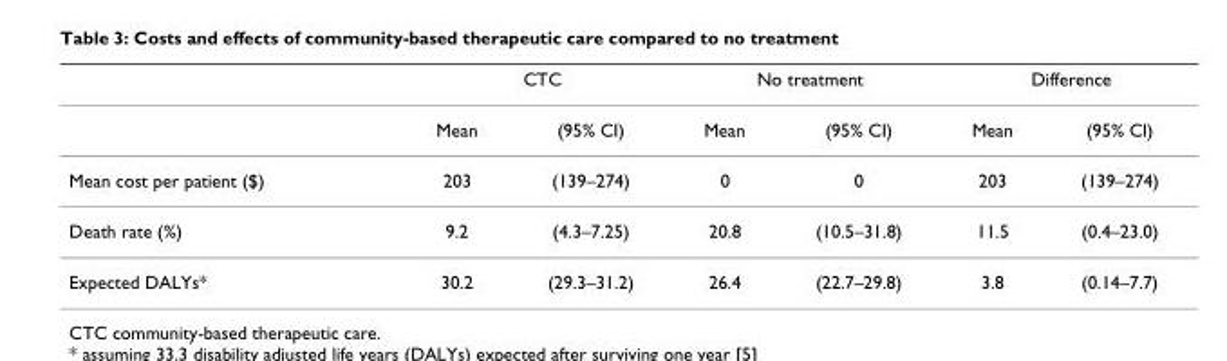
<table><thead><tr><td rowspan="2"></td><td colspan="2">CTC</td><td colspan="2">No treatment</td><td colspan="2">Difference</td></tr><tr><td>Mean</td><td>(95% CI)</td><td>Mean</td><td>(95% CI)</td><td>Mean</td><td>(95% CI)</td></tr></thead><tbody><tr><td>Mean cost per patient ($)</td><td>203</td><td>(139–274)</td><td>0</td><td>0</td><td>203</td><td>(139–274)</td></tr><tr><td>Death rate (%)</td><td>9.2</td><td>(4.3–7.25)</td><td>20.8</td><td>(10.5–31.8)</td><td>11.5</td><td>(0.4–23.0)</td></tr><tr><td>Expected DALYs*</td><td>30.2</td><td>(29.3–31.2)</td><td>26.4</td><td>(22.7–29.8)</td><td>3.8</td><td>(0.14–7.7)</td></tr></tbody></table>